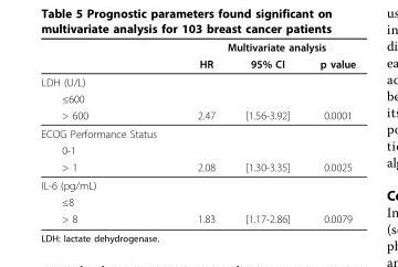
<table><thead><tr><td rowspan="2"></td><td colspan="3">Multivariate analysis</td></tr><tr><td>HR</td><td>95% CI</td><td>p value</td></tr></thead><tbody><tr><td colspan="4">LDH (U/L)</td></tr><tr><td colspan="4">≤600</td></tr><tr><td>&gt; 600</td><td>2.47</td><td>[1.56-3.92]</td><td>0.0001</td></tr><tr><td colspan="4">ECOG Performance Status</td></tr><tr><td colspan="4">0-1</td></tr><tr><td>&gt; 1</td><td>2.08</td><td>[1.30-3.35]</td><td>0.0025</td></tr><tr><td colspan="4">IL-6 (pg/mL)</td></tr><tr><td colspan="4">≤8</td></tr><tr><td>&gt; 8</td><td>1.83</td><td>[1.17-2.86]</td><td>0.0079</td></tr></tbody></table>